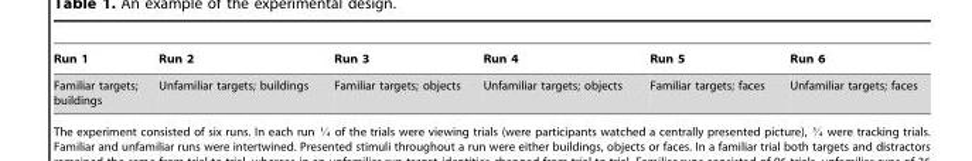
<table><thead><tr><td>Run 1</td><td>Run 2</td><td>Run 3</td><td>Run 4</td><td>Run 5</td><td>Run 6</td></tr></thead><tbody><tr><td>Familiar targets; buildings</td><td>Unfamiliar targets; buildings</td><td>Familiar targets; objects</td><td>Unfamiliar targets; objects</td><td>Familiar targets; faces</td><td>Unfamiliar targets; faces</td></tr></tbody></table>